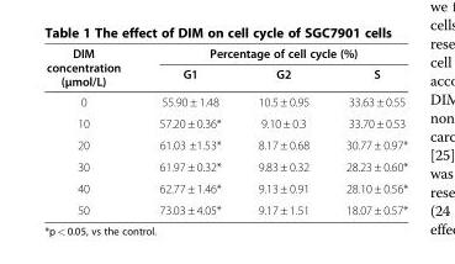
<table><thead><tr><td rowspan="2">DIM concentration (μmol/L)</td><td colspan="3">Percentage of cell cycle (%)</td></tr><tr><td>G1</td><td>G2</td><td>S</td></tr></thead><tbody><tr><td>0</td><td>55.90 ± 1.48</td><td>10.5 ± 0.95</td><td>33.63 ± 0.55</td></tr><tr><td>10</td><td>57.20 ± 0.36*</td><td>9.10 ± 0.3</td><td>33.70 ± 0.53</td></tr><tr><td>20</td><td>61.03 ±1.53*</td><td>8.17 ± 0.68</td><td>30.77 ± 0.97*</td></tr><tr><td>30</td><td>61.97 ± 0.32*</td><td>9.83 ± 0.32</td><td>28.23 ± 0.60*</td></tr><tr><td>40</td><td>62.77 ± 1.46*</td><td>9.13 ± 0.91</td><td>28.10 ± 0.56*</td></tr><tr><td>50</td><td>73.03 ± 4.05*</td><td>9.17 ± 1.51</td><td>18.07 ± 0.57*</td></tr></tbody></table>